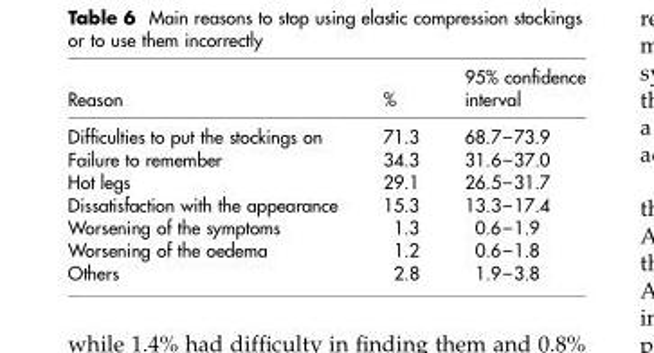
<table><thead><tr><td>Reason</td><td>%</td><td>95% confidence interval</td></tr></thead><tbody><tr><td>Difficulties to put the stockings on</td><td>71.3</td><td>68.7–73.9</td></tr><tr><td>Failure to remember</td><td>34.3</td><td>31.6–37.0</td></tr><tr><td>Hot legs</td><td>29.1</td><td>26.5–31.7</td></tr><tr><td>Dissatisfaction with the appearance</td><td>15.3</td><td>13.3–17.4</td></tr><tr><td>Worsening of the symptoms</td><td>1.3</td><td>0.6–1.9</td></tr><tr><td>Worsening of the oedema</td><td>1.2</td><td>0.6–1.8</td></tr><tr><td>Others</td><td>2.8</td><td>1.9–3.8</td></tr></tbody></table>